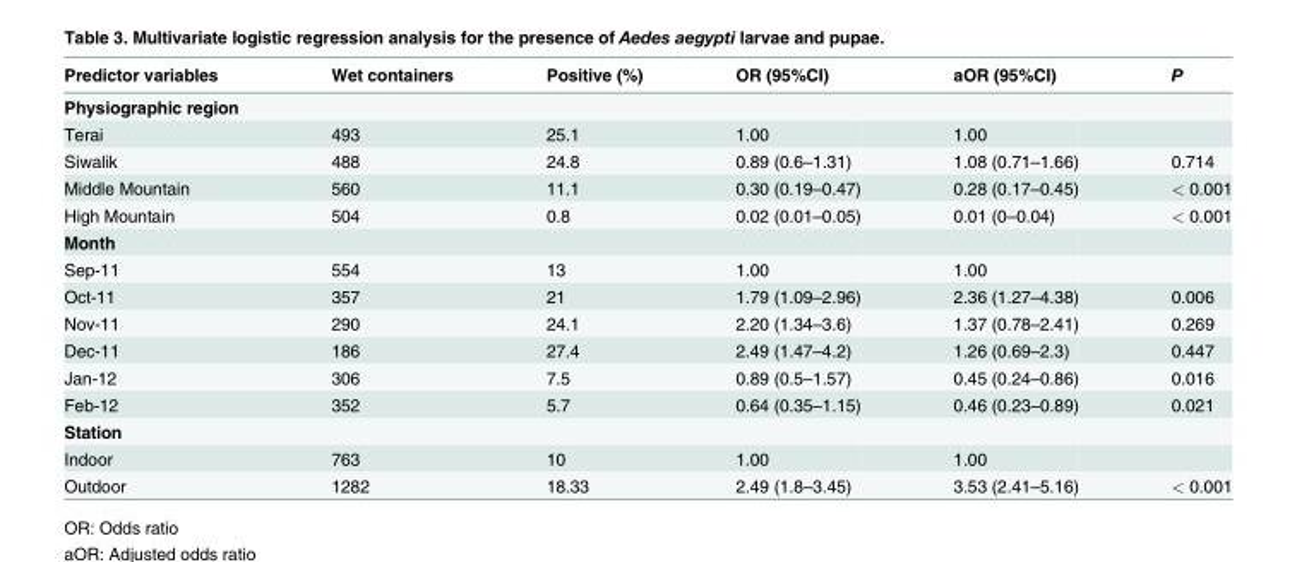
<table><thead><tr><td>Predictor variables</td><td>Wet containers</td><td>Positive (%)</td><td>OR (95%CI)</td><td>aOR (95%CI)</td><td>P</td></tr></thead><tbody><tr><td colspan="6">Physiographic region</td></tr><tr><td>Terai</td><td>493</td><td>25.1</td><td>1.00</td><td>1.00</td><td></td></tr><tr><td>Siwalik</td><td>488</td><td>24.8</td><td>0.89 (0.6–1.31)</td><td>1.08 (0.71–1.66)</td><td>0.714</td></tr><tr><td>Middle Mountain</td><td>560</td><td>11.1</td><td>0.30 (0.19–0.47)</td><td>0.28 (0.17–0.45)</td><td>&lt; 0.001</td></tr><tr><td>High Mountain</td><td>504</td><td>0.8</td><td>0.02 (0.01–0.05)</td><td>0.01 (0–0.04)</td><td>&lt; 0.001</td></tr><tr><td colspan="6">Month</td></tr><tr><td>Sep-11</td><td>554</td><td>13</td><td>1.00</td><td>1.00</td><td></td></tr><tr><td>Oct-11</td><td>357</td><td>21</td><td>1.79 (1.09–2.96)</td><td>2.36 (1.27–4.38)</td><td>0.006</td></tr><tr><td>Nov-11</td><td>290</td><td>24.1</td><td>2.20 (1.34–3.6)</td><td>1.37 (0.78–2.41)</td><td>0.269</td></tr><tr><td>Dec-11</td><td>186</td><td>27.4</td><td>2.49 (1.47–4.2)</td><td>1.26 (0.69–2.3)</td><td>0.447</td></tr><tr><td>Jan-12</td><td>306</td><td>7.5</td><td>0.89 (0.5–1.57)</td><td>0.45 (0.24–0.86)</td><td>0.016</td></tr><tr><td>Feb-12</td><td>352</td><td>5.7</td><td>0.64 (0.35–1.15)</td><td>0.46 (0.23–0.89)</td><td>0.021</td></tr><tr><td colspan="6">Station</td></tr><tr><td>Indoor</td><td>763</td><td>10</td><td>1.00</td><td>1.00</td><td></td></tr><tr><td>Outdoor</td><td>1282</td><td>18.33</td><td>2.49 (1.8–3.45)</td><td>3.53 (2.41–5.16)</td><td>&lt; 0.001</td></tr></tbody></table>